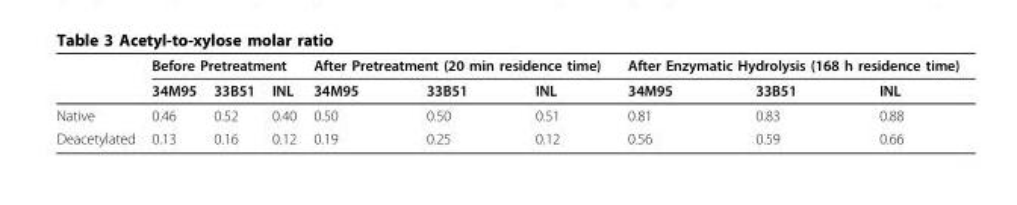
<table><thead><tr><td rowspan="2"></td><td colspan="3">Before Pretreatment</td><td colspan="3">After Pretreatment (20 min residence time)</td><td colspan="3">After Enzymatic Hydrolysis (168 h residence time)</td></tr><tr><td>34M95</td><td>33B51</td><td>INL</td><td>34M95</td><td>33B51</td><td>INL</td><td>34M95</td><td>33B51</td><td>INL</td></tr></thead><tbody><tr><td>Native</td><td>0.46</td><td>0.52</td><td>0.40</td><td>0.50</td><td>0.50</td><td>0.51</td><td>0.81</td><td>0.83</td><td>0.88</td></tr><tr><td>Deacetylated</td><td>0.13</td><td>0.16</td><td>0.12</td><td>0.19</td><td>0.25</td><td>0.12</td><td>0.56</td><td>0.59</td><td>0.66</td></tr></tbody></table>